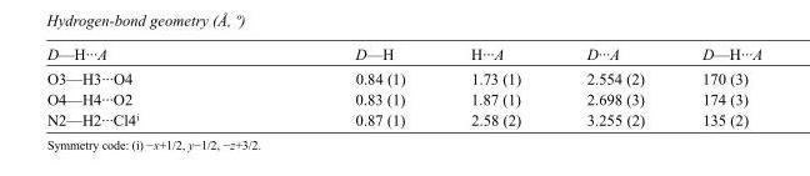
<table><tbody><tr><td>D—H···A</td><td>D—H</td><td>H···A</td><td>D···A</td><td>D—H···A</td></tr><tr><td>O3—H3···O4</td><td>0.84 (1)</td><td>1.73 (1)</td><td>2.554 (2)</td><td>170 (3)</td></tr><tr><td>O4—H4···O2</td><td>0.83 (1)</td><td>1.87 (1)</td><td>2.698 (3)</td><td>174 (3)</td></tr><tr><td>N2—H2···Cl4<sup>i</sup></td><td>0.87 (1)</td><td>2.58 (2)</td><td>3.255 (2)</td><td>135 (2)</td></tr></tbody></table>